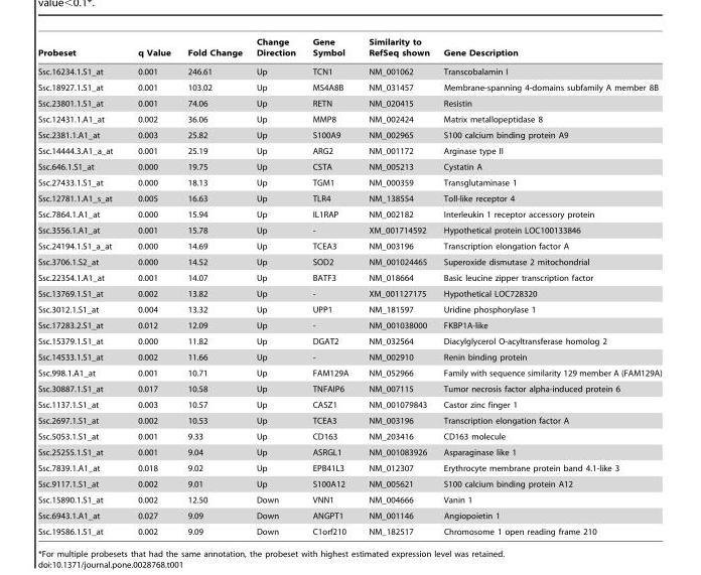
<table><thead><tr><td>Probeset</td><td>q Value</td><td>Fold Change</td><td>Change Direction</td><td>Gene Symbol</td><td>Similarity to RefSeq shown</td><td>Gene Description</td></tr></thead><tbody><tr><td>Ssc.16234.1.S1_at</td><td>0.001</td><td>246.61</td><td>Up</td><td>TCN1</td><td>NM_001062</td><td>Transcobalamin I</td></tr><tr><td>Ssc.18927.1.S1_at</td><td>0.001</td><td>103.02</td><td>Up</td><td>MS4A8B</td><td>NM_031457</td><td>Membrane-spanning 4-domains subfamily A member 8B</td></tr><tr><td>Ssc.23801.1.S1_at</td><td>0.001</td><td>74.06</td><td>Up</td><td>RETN</td><td>NM_020415</td><td>Resistin</td></tr><tr><td>Ssc.12431.1.A1_at</td><td>0.002</td><td>36.06</td><td>Up</td><td>MMP8</td><td>NM_002424</td><td>Matrix metallopeptidase 8</td></tr><tr><td>Ssc.2381.1.A1_at</td><td>0.003</td><td>25.82</td><td>Up</td><td>S100A9</td><td>NM_002965</td><td>S100 calcium binding protein A9</td></tr><tr><td>Ssc.14444.3.A1_a_at</td><td>0.001</td><td>25.19</td><td>Up</td><td>ARG2</td><td>NM_001172</td><td>Arginase type II</td></tr><tr><td>Ssc.646.1.S1_at</td><td>0.000</td><td>19.75</td><td>Up</td><td>CSTA</td><td>NM_005213</td><td>Cystatin A</td></tr><tr><td>Ssc.27433.1.S1_at</td><td>0.000</td><td>18.13</td><td>Up</td><td>TGM1</td><td>NM_000359</td><td>Transglutaminase 1</td></tr><tr><td>Ssc.12781.1.A1_s_at</td><td>0.005</td><td>16.63</td><td>Up</td><td>TLR4</td><td>NM_138554</td><td>Toll-like receptor 4</td></tr><tr><td>Ssc.7864.1.A1_at</td><td>0.000</td><td>15.94</td><td>Up</td><td>IL1RAP</td><td>NM_002182</td><td>Interleukin 1 receptor accessory protein</td></tr><tr><td>Ssc.3556.1.A1_at</td><td>0.001</td><td>15.78</td><td>Up</td><td>-</td><td>XM_001714592</td><td>Hypothetical protein LOC100133846</td></tr><tr><td>Ssc.24194.1.S1_a_at</td><td>0.000</td><td>14.69</td><td>Up</td><td>TCEA3</td><td>NM_003196</td><td>Transcription elongation factor A</td></tr><tr><td>Ssc.3706.1.S2_at</td><td>0.000</td><td>14.52</td><td>Up</td><td>SOD2</td><td>NM_001024465</td><td>Superoxide dismutase 2 mitochondrial</td></tr><tr><td>Ssc.22354.1.A1_at</td><td>0.001</td><td>14.07</td><td>Up</td><td>BATF3</td><td>NM_018664</td><td>Basic leucine zipper transcription factor</td></tr><tr><td>Ssc.13769.1.S1_at</td><td>0.002</td><td>13.82</td><td>Up</td><td>-</td><td>XM_001127175</td><td>Hypothetical LOC728320</td></tr><tr><td>Ssc.3012.1.S1_at</td><td>0.004</td><td>13.32</td><td>Up</td><td>UPP1</td><td>NM_181597</td><td>Uridine phosphorylase 1</td></tr><tr><td>Ssc.17283.2.S1_at</td><td>0.012</td><td>12.09</td><td>Up</td><td>-</td><td>NM_001038000</td><td>FKBP1A-like</td></tr><tr><td>Ssc.15379.1.S1_at</td><td>0.000</td><td>11.82</td><td>Up</td><td>DGAT2</td><td>NM_032564</td><td>Diacylglycerol O-acyltransferase homolog 2</td></tr><tr><td>Ssc.14533.1.S1_at</td><td>0.002</td><td>11.66</td><td>Up</td><td>-</td><td>NM_002910</td><td>Renin binding protein</td></tr><tr><td>Ssc.998.1.A1_at</td><td>0.001</td><td>10.71</td><td>Up</td><td>FAM129A</td><td>NM_052966</td><td>Family with sequence similarity 129 member A (FAM129A)</td></tr><tr><td>Ssc.30887.1.S1_at</td><td>0.017</td><td>10.58</td><td>Up</td><td>TNFAIP6</td><td>NM_007115</td><td>Tumor necrosis factor alpha-induced protein 6</td></tr><tr><td>Ssc.1137.1.S1_at</td><td>0.003</td><td>10.57</td><td>Up</td><td>CASZ1</td><td>NM_001079843</td><td>Castor zinc finger 1</td></tr><tr><td>Ssc.2697.1.S1_at</td><td>0.002</td><td>10.53</td><td>Up</td><td>TCEA3</td><td>NM_003196</td><td>Transcription elongation factor A</td></tr><tr><td>Ssc.5053.1.S1_at</td><td>0.001</td><td>9.33</td><td>Up</td><td>CD163</td><td>NM_203416</td><td>CD163 molecule</td></tr><tr><td>Ssc.25255.1.S1_at</td><td>0.001</td><td>9.04</td><td>Up</td><td>ASRGL1</td><td>NM_001083926</td><td>Asparaginase like 1</td></tr><tr><td>Ssc.7839.1.A1_at</td><td>0.018</td><td>9.02</td><td>Up</td><td>EPB41L3</td><td>NM_012307</td><td>Erythrocyte membrane protein band 4.1-like 3</td></tr><tr><td>Ssc.9117.1.S1_at</td><td>0.002</td><td>9.01</td><td>Up</td><td>S100A12</td><td>NM_005621</td><td>S100 calcium binding protein A12</td></tr><tr><td>Ssc.15890.1.S1_at</td><td>0.002</td><td>12.50</td><td>Down</td><td>VNN1</td><td>NM_004666</td><td>Vanin 1</td></tr><tr><td>Ssc.6943.1.A1_at</td><td>0.027</td><td>9.09</td><td>Down</td><td>ANGPT1</td><td>NM_001146</td><td>Angiopoietin 1</td></tr><tr><td>Ssc.19586.1.S1_at</td><td>0.002</td><td>9.09</td><td>Down</td><td>C1orf210</td><td>NM_182517</td><td>Chromosome 1 open reading frame 210</td></tr></tbody></table>